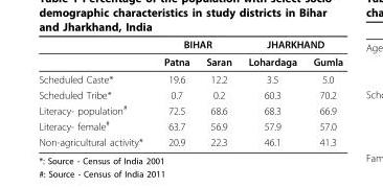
<table><thead><tr><td rowspan="2"></td><td colspan="2">BIHAR</td><td colspan="2">JHARKHAND</td></tr><tr><td>Patna</td><td>Saran</td><td>Lohardaga</td><td>Gumla</td></tr></thead><tbody><tr><td>Scheduled Caste*</td><td>19.6</td><td>12.2</td><td>3.5</td><td>5.0</td></tr><tr><td>Scheduled Tribe*</td><td>0.7</td><td>0.2</td><td>60.3</td><td>70.2</td></tr><tr><td>Literacy- population<sup>#</sup></td><td>72.5</td><td>68.6</td><td>68.3</td><td>66.9</td></tr><tr><td>Literacy- female<sup>#</sup></td><td>63.7</td><td>56.9</td><td>57.9</td><td>57.0</td></tr><tr><td>Non-agricultural activity*</td><td>20.9</td><td>22.3</td><td>46.1</td><td>41.3</td></tr></tbody></table>